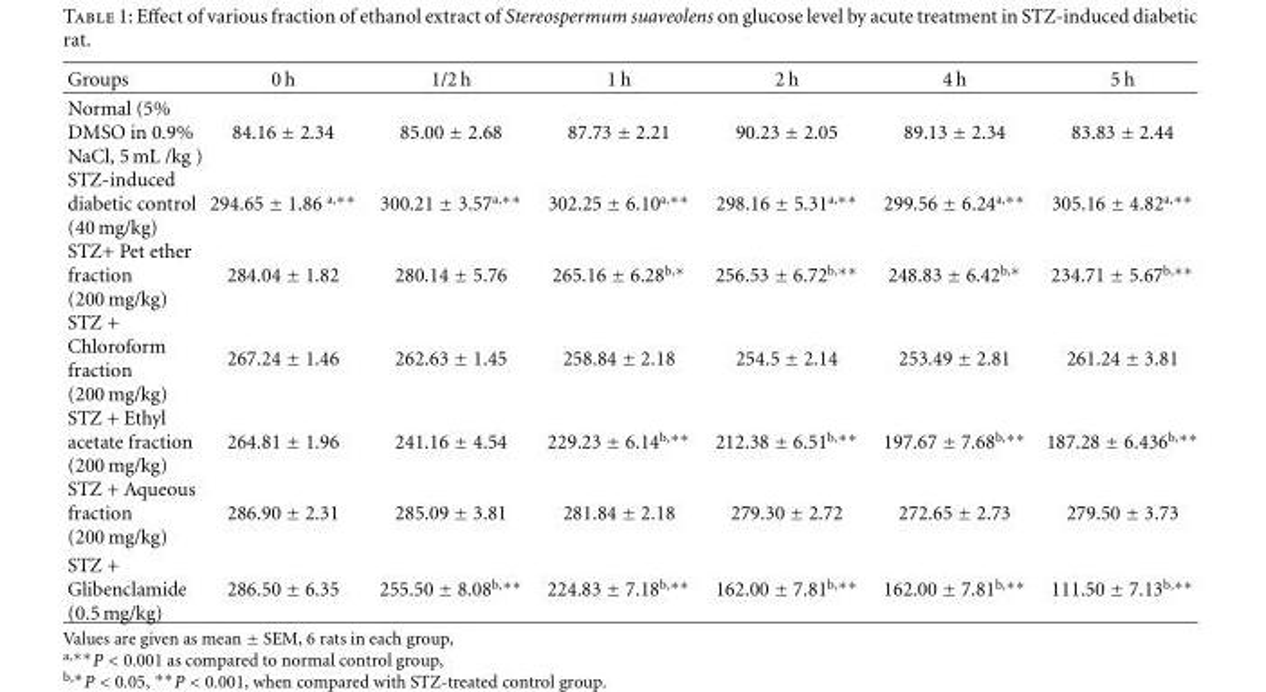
<table><thead><tr><td>Groups</td><td>0 h</td><td>1/2 h</td><td>1 h</td><td>2 h</td><td>4 h</td><td>5 h</td></tr></thead><tbody><tr><td>Normal (5% DMSO in 0.9% NaCl, 5 mL /kg )</td><td>84.16 ± 2.34</td><td>85.00 ± 2.68</td><td>87.73 ± 2.21</td><td>90.23 ± 2.05</td><td>89.13 ± 2.34</td><td>83.83 ± 2.44</td></tr><tr><td>STZ-induced diabetic control (40 mg/kg)</td><td>294.65 ± 1.86 <sup>a,∗∗</sup></td><td>300.21 ± 3.57<sup>a,∗∗</sup></td><td>302.25 ± 6.10<sup>a,∗∗</sup></td><td>298.16 ± 5.31<sup>a,∗∗</sup></td><td>299.56 ± 6.24<sup>a,∗∗</sup></td><td>305.16 ± 4.82<sup>a,∗∗</sup></td></tr><tr><td>STZ+ Pet ether fraction (200 mg/kg)</td><td>284.04 ± 1.82</td><td>280.14 ± 5.76</td><td>265.16 ± 6.28<sup>b,∗</sup></td><td>256.53 ± 6.72<sup>b,∗∗</sup></td><td>248.83 ± 6.42<sup>b,∗</sup></td><td>234.71 ± 5.67<sup>b,∗∗</sup></td></tr><tr><td>STZ + Chloroform fraction (200 mg/kg)</td><td>267.24 ± 1.46</td><td>262.63 ± 1.45</td><td>258.84 ± 2.18</td><td>254.5 ± 2.14</td><td>253.49 ± 2.81</td><td>261.24 ± 3.81</td></tr><tr><td>STZ + Ethyl acetate fraction (200 mg/kg)</td><td>264.81 ± 1.96</td><td>241.16 ± 4.54</td><td>229.23 ± 6.14<sup>b,∗∗</sup></td><td>212.38 ± 6.51<sup>b,∗∗</sup></td><td>197.67 ± 7.68<sup>b,∗∗</sup></td><td>187.28 ± 6.436<sup>b,∗∗</sup></td></tr><tr><td>STZ + Aqueous fraction (200 mg/kg)</td><td>286.90 ± 2.31</td><td>285.09 ± 3.81</td><td>281.84 ± 2.18</td><td>279.30 ± 2.72</td><td>272.65 ± 2.73</td><td>279.50 ± 3.73</td></tr><tr><td>STZ + Glibenclamide (0.5 mg/kg)</td><td>286.50 ± 6.35</td><td>255.50 ± 8.08<sup>b,∗∗</sup></td><td>224.83 ± 7.18<sup>b,∗∗</sup></td><td>162.00 ± 7.81<sup>b,∗∗</sup></td><td>162.00 ± 7.81<sup>b,∗∗</sup></td><td>111.50 ± 7.13<sup>b,∗∗</sup></td></tr></tbody></table>